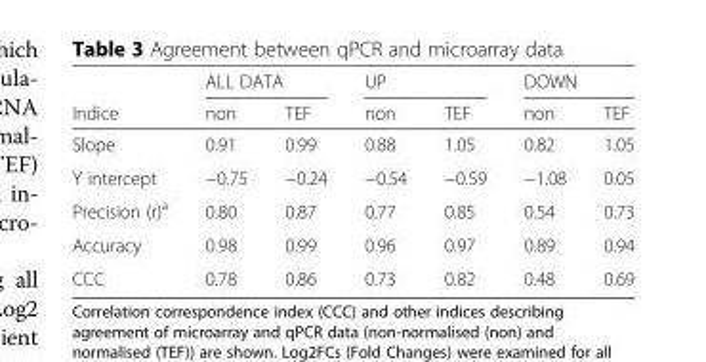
<table><thead><tr><td rowspan="2">Indice</td><td colspan="2">ALL DATA</td><td colspan="2">UP</td><td colspan="2">DOWN</td></tr><tr><td>non</td><td>TEF</td><td>non</td><td>TEF</td><td>non</td><td>TEF</td></tr></thead><tbody><tr><td>Slope</td><td>0.91</td><td>0.99</td><td>0.88</td><td>1.05</td><td>0.82</td><td>1.05</td></tr><tr><td>Y intercept</td><td>−0.75</td><td>−0.24</td><td>−0.54</td><td>−0.59</td><td>−1.08</td><td>0.05</td></tr><tr><td>Precision (r)<sup>a</sup></td><td>0.80</td><td>0.87</td><td>0.77</td><td>0.85</td><td>0.54</td><td>0.73</td></tr><tr><td>Accuracy</td><td>0.98</td><td>0.99</td><td>0.96</td><td>0.97</td><td>0.89</td><td>0.94</td></tr><tr><td>CCC</td><td>0.78</td><td>0.86</td><td>0.73</td><td>0.82</td><td>0.48</td><td>0.69</td></tr></tbody></table>